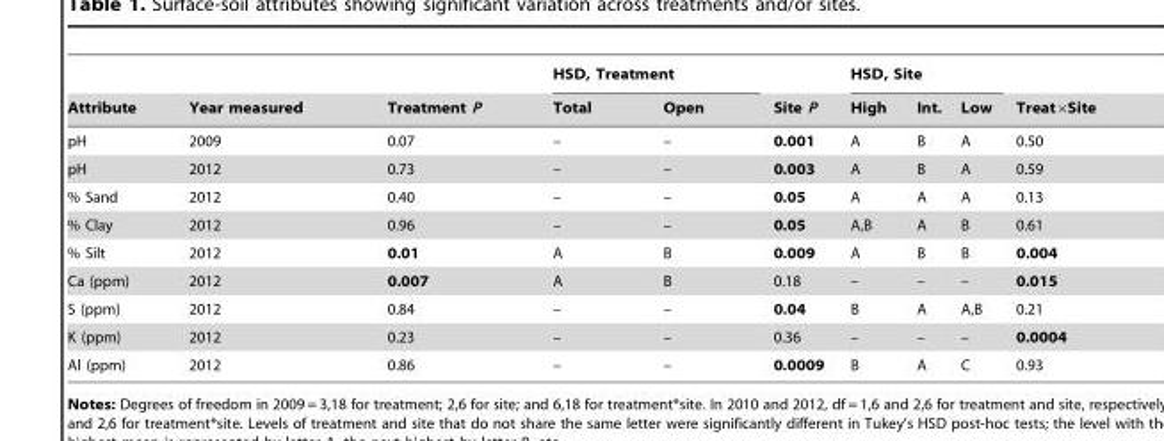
<table><thead><tr><td rowspan="2">Attribute</td><td rowspan="2">Year measured</td><td rowspan="2">Treatment P</td><td colspan="2">HSD, Treatment</td><td rowspan="2">Site P</td><td colspan="3">HSD, Site</td><td rowspan="2">Treat×Site</td></tr><tr><td>Total</td><td>Open</td><td>High</td><td>Int.</td><td>Low</td></tr></thead><tbody><tr><td>pH</td><td>2009</td><td>0.07</td><td>–</td><td>–</td><td>0.001</td><td>A</td><td>B</td><td>A</td><td>0.50</td></tr><tr><td>pH</td><td>2012</td><td>0.73</td><td>–</td><td>–</td><td>0.003</td><td>A</td><td>B</td><td>A</td><td>0.59</td></tr><tr><td>% Sand</td><td>2012</td><td>0.40</td><td>–</td><td>–</td><td>0.05</td><td>A</td><td>A</td><td>A</td><td>0.13</td></tr><tr><td>% Clay</td><td>2012</td><td>0.96</td><td>–</td><td>–</td><td>0.05</td><td>A,B</td><td>A</td><td>B</td><td>0.61</td></tr><tr><td>% Silt</td><td>2012</td><td>0.01</td><td>A</td><td>B</td><td>0.009</td><td>A</td><td>B</td><td>B</td><td>0.004</td></tr><tr><td>Ca (ppm)</td><td>2012</td><td>0.007</td><td>A</td><td>B</td><td>0.18</td><td>–</td><td>–</td><td>–</td><td>0.015</td></tr><tr><td>S (ppm)</td><td>2012</td><td>0.84</td><td>–</td><td>–</td><td>0.04</td><td>B</td><td>A</td><td>A,B</td><td>0.21</td></tr><tr><td>K (ppm)</td><td>2012</td><td>0.23</td><td>–</td><td>–</td><td>0.36</td><td>–</td><td>–</td><td>–</td><td>0.0004</td></tr><tr><td>Al (ppm)</td><td>2012</td><td>0.86</td><td>–</td><td>–</td><td>0.0009</td><td>B</td><td>A</td><td>C</td><td>0.93</td></tr></tbody></table>